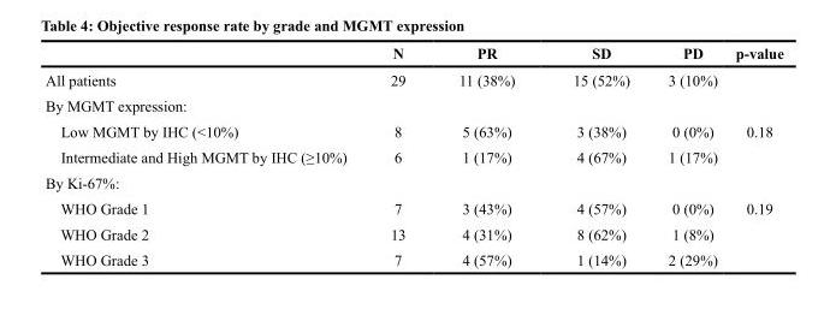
<table><thead><tr><td></td><td>N</td><td>PR</td><td>SD</td><td>PD</td><td>p-value</td></tr></thead><tbody><tr><td>All patients</td><td>29</td><td>11 (38%)</td><td>15 (52%)</td><td>3 (10%)</td><td></td></tr><tr><td colspan="6">By MGMT expression:</td></tr><tr><td>Low MGMT by IHC (&lt;10%)</td><td>8</td><td>5 (63%)</td><td>3 (38%)</td><td>0 (0%)</td><td>0.18</td></tr><tr><td>Intermediate and High MGMT by IHC (≥10%)</td><td>6</td><td>1 (17%)</td><td>4 (67%)</td><td>1 (17%)</td><td></td></tr><tr><td colspan="6">By Ki-67%:</td></tr><tr><td>WHO Grade 1</td><td>7</td><td>3 (43%)</td><td>4 (57%)</td><td>0 (0%)</td><td>0.19</td></tr><tr><td>WHO Grade 2</td><td>13</td><td>4 (31%)</td><td>8 (62%)</td><td>1 (8%)</td><td></td></tr><tr><td>WHO Grade 3</td><td>7</td><td>4 (57%)</td><td>1 (14%)</td><td>2 (29%)</td><td></td></tr></tbody></table>